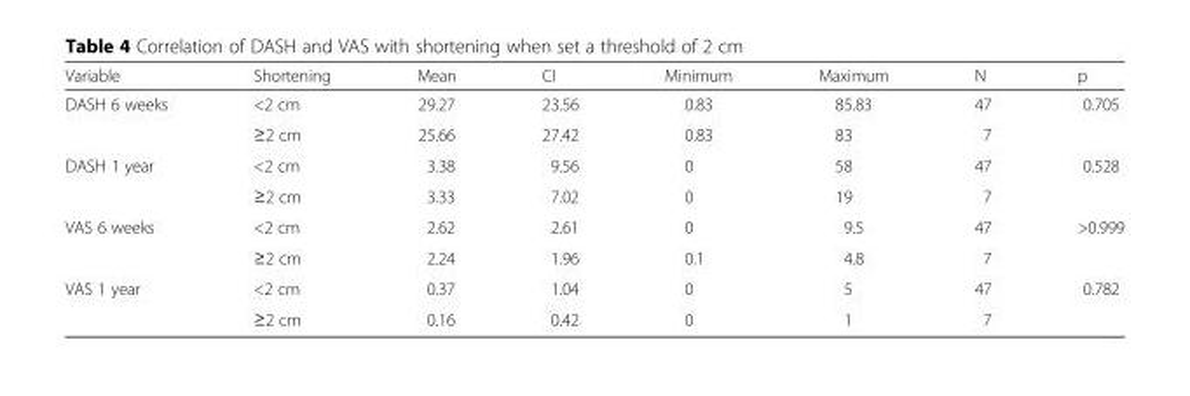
<table><thead><tr><td>Variable</td><td>Shortening</td><td>Mean</td><td>CI</td><td>Minimum</td><td>Maximum</td><td>N</td><td>p</td></tr></thead><tbody><tr><td rowspan="2">DASH 6 weeks</td><td>&lt;2 cm</td><td>29.27</td><td>23.56</td><td>0.83</td><td>85.83</td><td>47</td><td rowspan="2">0.705</td></tr><tr><td>≥2 cm</td><td>25.66</td><td>27.42</td><td>0.83</td><td>83</td><td>7</td></tr><tr><td rowspan="2">DASH 1 year</td><td>&lt;2 cm</td><td>3.38</td><td>9.56</td><td>0</td><td>58</td><td>47</td><td rowspan="2">0.528</td></tr><tr><td>≥2 cm</td><td>3.33</td><td>7.02</td><td>0</td><td>19</td><td>7</td></tr><tr><td rowspan="2">VAS 6 weeks</td><td>&lt;2 cm</td><td>2.62</td><td>2.61</td><td>0</td><td>9.5</td><td>47</td><td rowspan="2">&gt;0.999</td></tr><tr><td>≥2 cm</td><td>2.24</td><td>1.96</td><td>0.1</td><td>4.8</td><td>7</td></tr><tr><td rowspan="2">VAS 1 year</td><td>&lt;2 cm</td><td>0.37</td><td>1.04</td><td>0</td><td>5</td><td>47</td><td rowspan="2">0.782</td></tr><tr><td>≥2 cm</td><td>0.16</td><td>0.42</td><td>0</td><td>1</td><td>7</td></tr></tbody></table>